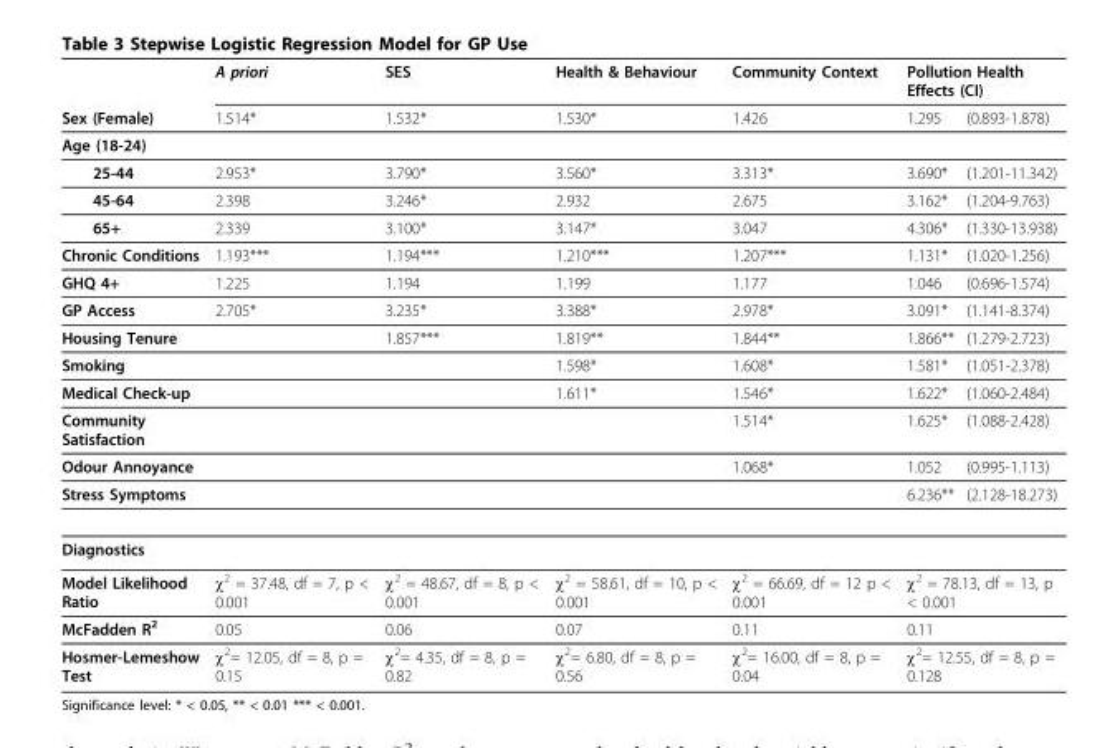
<table><thead><tr><td rowspan="2">Sex (Female)</td><td rowspan="2">A priori 1.514*</td><td rowspan="2">SES 1.532*</td><td rowspan="2">Health &amp; Behaviour 1.530*</td><td rowspan="2">Community Context 1.426</td><td colspan="2">Pollution Health Effects (CI)</td></tr><tr><td>1.295</td><td>(0.893-1.878)</td></tr></thead><tbody><tr><td colspan="7">Age (18-24)</td></tr><tr><td>25-44</td><td>2.953*</td><td>3.790*</td><td>3.560*</td><td>3.313*</td><td>3.690*</td><td>(1.201-11.342)</td></tr><tr><td>45-64</td><td>2.398</td><td>3.246*</td><td>2.932</td><td>2.675</td><td>3.162*</td><td>(1.204-9.763)</td></tr><tr><td>65+</td><td>2.339</td><td>3.100*</td><td>3.147*</td><td>3.047</td><td>4.306*</td><td>(1.330-13.938)</td></tr><tr><td>Chronic Conditions</td><td>1.193***</td><td>1.194***</td><td>1.210***</td><td>1.207***</td><td>1.131*</td><td>(1.020-1.256)</td></tr><tr><td>GHQ 4+</td><td>1.225</td><td>1.194</td><td>1.199</td><td>1.177</td><td>1.046</td><td>(0.696-1.574)</td></tr><tr><td>GP Access</td><td>2.705*</td><td>3.235*</td><td>3.388*</td><td>2.978*</td><td>3.091*</td><td>(1.141-8.374)</td></tr><tr><td>Housing Tenure</td><td></td><td>1.857***</td><td>1.819**</td><td>1.844**</td><td>1.866**</td><td>(1.279-2.723)</td></tr><tr><td>Smoking</td><td></td><td></td><td>1.598*</td><td>1.608*</td><td>1.581*</td><td>(1.051-2.378)</td></tr><tr><td>Medical Check-up</td><td></td><td></td><td>1.611*</td><td>1.546*</td><td>1.622*</td><td>(1.060-2.484)</td></tr><tr><td>Community Satisfaction</td><td></td><td></td><td></td><td>1.514*</td><td>1.625*</td><td>(1.088-2.428)</td></tr><tr><td>Odour Annoyance</td><td></td><td></td><td></td><td>1.068*</td><td>1.052</td><td>(0.995-1.113)</td></tr><tr><td>Stress Symptoms</td><td></td><td></td><td></td><td></td><td>6.236**</td><td>(2.128-18.273)</td></tr><tr><td colspan="7">Diagnostics</td></tr><tr><td>Model Likelihood Ratio</td><td>χ2 = 37.48, df = 7, p &lt; 0.001</td><td>χ2 = 48.67, df = 8, p &lt; 0.001</td><td>χ2 = 58.61, df = 10, p &lt; 0.001</td><td>χ2 = 66.69, df = 12 p &lt; 0.001</td><td colspan="2">χ2 = 78.13, df = 13, p &lt; 0.001</td></tr><tr><td>McFadden R2</td><td>0.05</td><td>0.06</td><td>0.07</td><td>0.11</td><td colspan="2">0.11</td></tr><tr><td>Hosmer-Lemeshow Test</td><td>χ2= 12.05, df = 8, p = 0.15</td><td>χ2= 4.35, df = 8, p = 0.82</td><td>χ2= 6.80, df = 8, p = 0.56</td><td>χ2= 16.00, df = 8, p = 0.04</td><td colspan="2">χ2= 12.55, df = 8, p = 0.128</td></tr></tbody></table>